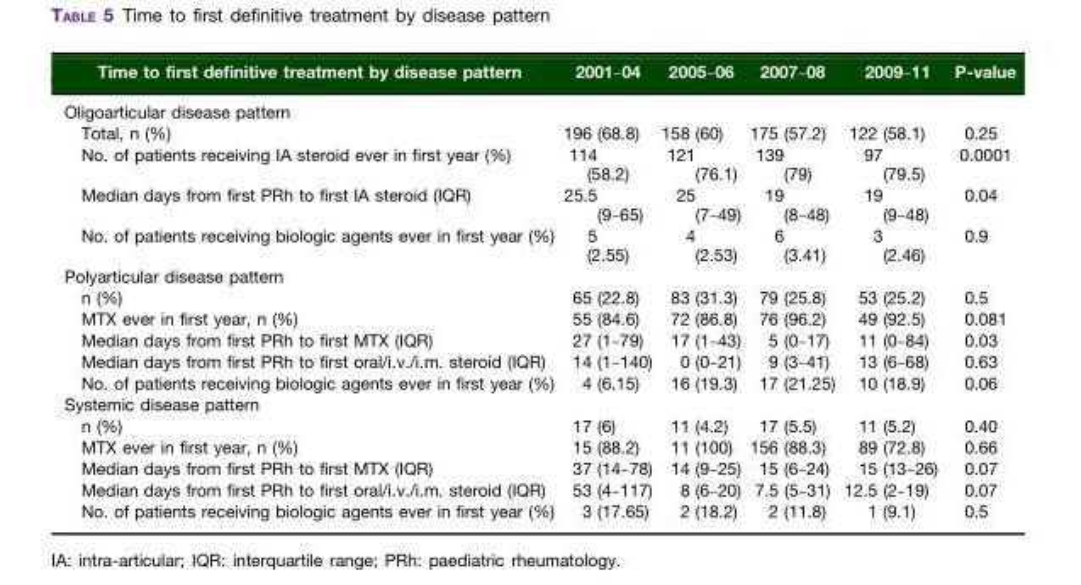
<table><thead><tr><td>Time to first definitive treatment by disease pattern</td><td>2001–04</td><td>2005–06</td><td>2007–08</td><td>2009–11</td><td>P-value</td></tr></thead><tbody><tr><td colspan="6">Oligoarticular disease pattern</td></tr><tr><td>Total, n (%)</td><td>196 (68.8)</td><td>158 (60)</td><td>175 (57.2)</td><td>122 (58.1)</td><td>0.25</td></tr><tr><td rowspan="2">No. of patients receiving IA steroid ever in first year (%)</td><td>114</td><td>121</td><td>139</td><td>97</td><td rowspan="2">0.0001</td></tr><tr><td>(58.2)</td><td>(76.1)</td><td>(79)</td><td>(79.5)</td></tr><tr><td rowspan="2">Median days from first PRh to first IA steroid (IQR)</td><td>25.5</td><td>25</td><td>19</td><td>19</td><td rowspan="2">0.04</td></tr><tr><td>(9–65)</td><td>(7–49)</td><td>(8–48)</td><td>(9–48)</td></tr><tr><td rowspan="2">No. of patients receiving biologic agents ever in first year (%)</td><td>5</td><td>4</td><td>6</td><td>3</td><td rowspan="2">0.9</td></tr><tr><td>(2.55)</td><td>(2.53)</td><td>(3.41)</td><td>(2.46)</td></tr><tr><td colspan="6">Polyarticular disease pattern</td></tr><tr><td>n (%)</td><td>65 (22.8)</td><td>83 (31.3)</td><td>79 (25.8)</td><td>53 (25.2)</td><td>0.5</td></tr><tr><td>MTX ever in first year, n (%)</td><td>55 (84.6)</td><td>72 (86.8)</td><td>76 (96.2)</td><td>49 (92.5)</td><td>0.081</td></tr><tr><td>Median days from first PRh to first MTX (IQR)</td><td>27 (1–79)</td><td>17 (1–43)</td><td>5 (0–17)</td><td>11 (0–84)</td><td>0.03</td></tr><tr><td>Median days from first PRh to first oral/i.v./i.m. steroid (IQR)</td><td>14 (1–140)</td><td>0 (0–21)</td><td>9 (3–41)</td><td>13 (6–68)</td><td>0.63</td></tr><tr><td>No. of patients receiving biologic agents ever in first year (%)</td><td>4 (6.15)</td><td>16 (19.3)</td><td>17 (21.25)</td><td>10 (18.9)</td><td>0.06</td></tr><tr><td colspan="6">Systemic disease pattern</td></tr><tr><td>n (%)</td><td>17 (6)</td><td>11 (4.2)</td><td>17 (5.5)</td><td>11 (5.2)</td><td>0.40</td></tr><tr><td>MTX ever in first year, n (%)</td><td>15 (88.2)</td><td>11 (100)</td><td>156 (88.3)</td><td>89 (72.8)</td><td>0.66</td></tr><tr><td>Median days from first PRh to first MTX (IQR)</td><td>37 (14–78)</td><td>14 (9–25)</td><td>15 (6–24)</td><td>15 (13–26)</td><td>0.07</td></tr><tr><td>Median days from first PRh to first oral/i.v./i.m. steroid (IQR)</td><td>53 (4–117)</td><td>8 (6–20)</td><td>7.5 (5–31)</td><td>12.5 (2–19)</td><td>0.07</td></tr><tr><td>No. of patients receiving biologic agents ever in first year (%)</td><td>3 (17.65)</td><td>2 (18.2)</td><td>2 (11.8)</td><td>1 (9.1)</td><td>0.5</td></tr></tbody></table>